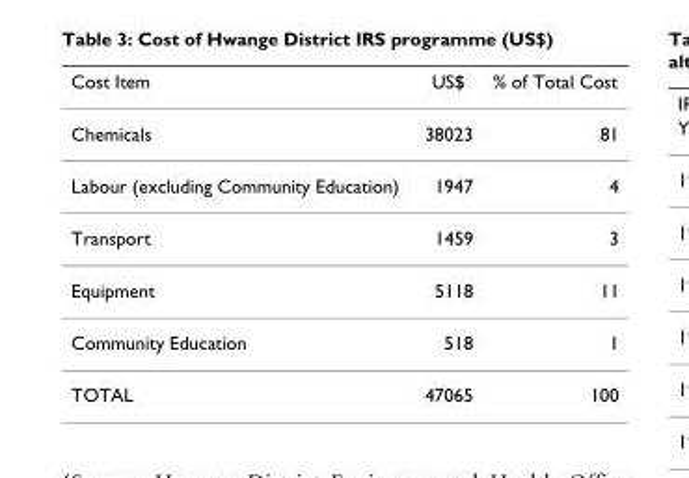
<table><thead><tr><td>Cost Item</td><td>US$</td><td>% of Total Cost</td></tr></thead><tbody><tr><td>Chemicals</td><td>38023</td><td>81</td></tr><tr><td>Labour (excluding Community Education)</td><td>1947</td><td>4</td></tr><tr><td>Transport</td><td>1459</td><td>3</td></tr><tr><td>Equipment</td><td>5118</td><td>11</td></tr><tr><td>Community Education</td><td>518</td><td>1</td></tr><tr><td>TOTAL</td><td>47065</td><td>100</td></tr></tbody></table>